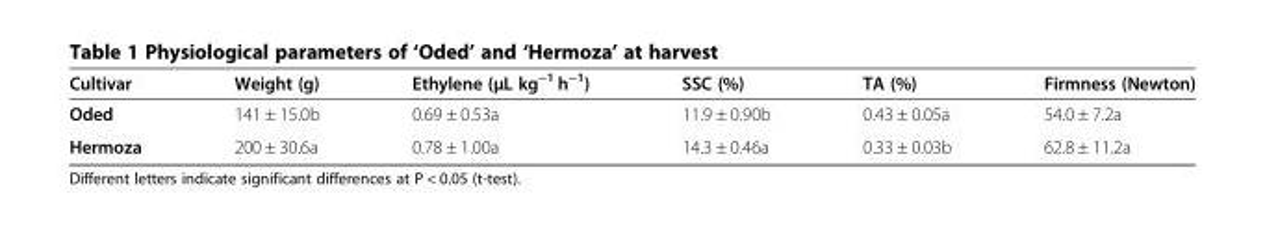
<table><thead><tr><td>Cultivar</td><td>Weight (g)</td><td>Ethylene (μL kg<sup>−1</sup> h<sup>−1</sup>)</td><td>SSC (%)</td><td>TA (%)</td><td>Firmness (Newton)</td></tr></thead><tbody><tr><td>Oded</td><td>141 ± 15.0b</td><td>0.69 ± 0.53a</td><td>11.9 ± 0.90b</td><td>0.43 ± 0.05a</td><td>54.0 ± 7.2a</td></tr><tr><td>Hermoza</td><td>200 ± 30.6a</td><td>0.78 ± 1.00a</td><td>14.3 ± 0.46a</td><td>0.33 ± 0.03b</td><td>62.8 ± 11.2a</td></tr></tbody></table>